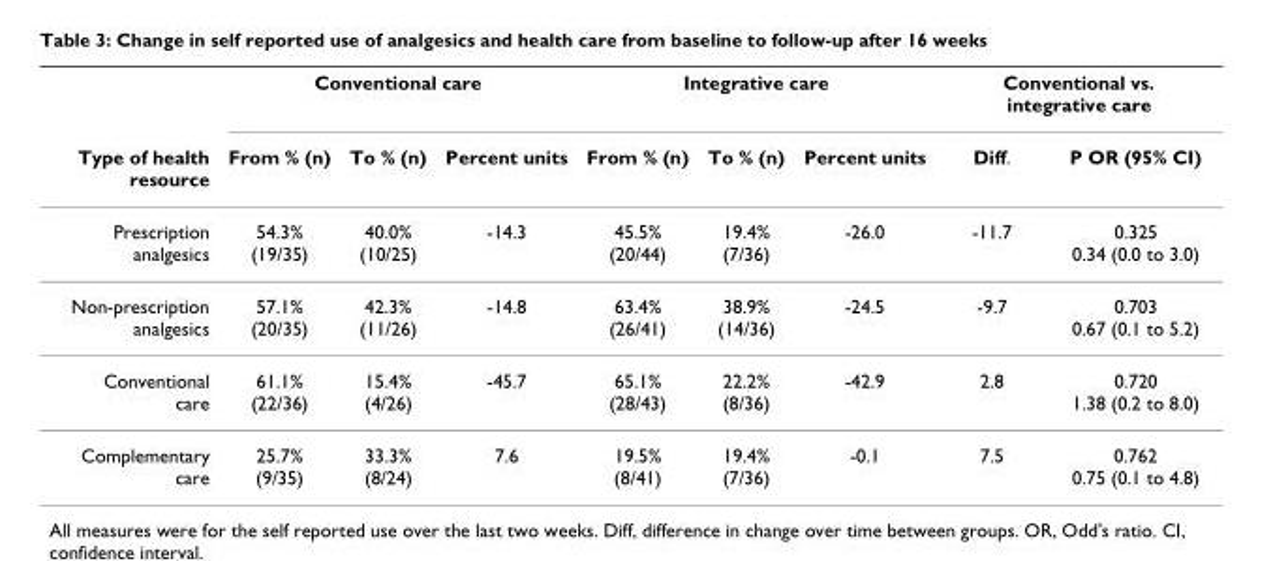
<table><thead><tr><td rowspan="2">Type of health resource</td><td colspan="3">Conventional care</td><td colspan="3">Integrative care</td><td colspan="2">Conventional vs. integrative care</td></tr><tr><td>From % (n)</td><td>To % (n)</td><td>Percent units</td><td>From % (n)</td><td>To % (n)</td><td>Percent units</td><td>Diff.</td><td>P OR (95% CI)</td></tr></thead><tbody><tr><td>Prescription analgesics</td><td>54.3% (19/35)</td><td>40.0% (10/25)</td><td>-14.3</td><td>45.5% (20/44)</td><td>19.4% (7/36)</td><td>-26.0</td><td>-11.7</td><td>0.325 0.34 (0.0 to 3.0)</td></tr><tr><td>Non-prescription analgesics</td><td>57.1% (20/35)</td><td>42.3% (11/26)</td><td>-14.8</td><td>63.4% (26/41)</td><td>38.9% (14/36)</td><td>-24.5</td><td>-9.7</td><td>0.703 0.67 (0.1 to 5.2)</td></tr><tr><td>Conventional care</td><td>61.1% (22/36)</td><td>15.4% (4/26)</td><td>-45.7</td><td>65.1% (28/43)</td><td>22.2% (8/36)</td><td>-42.9</td><td>2.8</td><td>0.720 1.38 (0.2 to 8.0)</td></tr><tr><td>Complementary care</td><td>25.7% (9/35)</td><td>33.3% (8/24)</td><td>7.6</td><td>19.5% (8/41)</td><td>19.4% (7/36)</td><td>-0.1</td><td>7.5</td><td>0.762 0.75 (0.1 to 4.8)</td></tr></tbody></table>